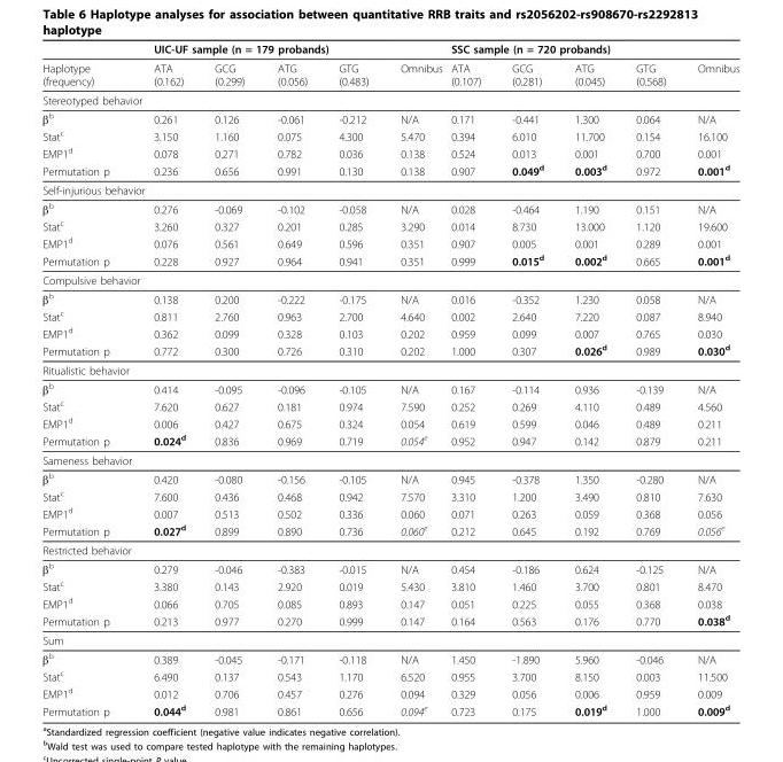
<table><thead><tr><td rowspan="2">Haplotype (frequency)</td><td colspan="5">UIC-UF sample (n = 179 probands)</td><td colspan="5">SSC sample (n = 720 probands)</td></tr><tr><td>ATA (0.162)</td><td>GCG (0.299)</td><td>ATG (0.056)</td><td>GTG (0.483)</td><td>Omnibus</td><td>ATA (0.107)</td><td>GCG (0.281)</td><td>ATG (0.045)</td><td>GTG (0.568)</td><td>Omnibus</td></tr></thead><tbody><tr><td colspan="11">Stereotyped behavior</td></tr><tr><td>β<sup>b</sup></td><td>0.261</td><td>0.126</td><td>-0.061</td><td>-0.212</td><td>N/A</td><td>0.171</td><td>-0.441</td><td>1.300</td><td>0.064</td><td>N/A</td></tr><tr><td>Stat<sup>c</sup></td><td>3.150</td><td>1.160</td><td>0.075</td><td>4.300</td><td>5.470</td><td>0.394</td><td>6.010</td><td>11.700</td><td>0.154</td><td>16.100</td></tr><tr><td>EMP1<sup>d</sup></td><td>0.078</td><td>0.271</td><td>0.782</td><td>0.036</td><td>0.138</td><td>0.524</td><td>0.013</td><td>0.001</td><td>0.700</td><td>0.001</td></tr><tr><td>Permutation p</td><td>0.236</td><td>0.656</td><td>0.991</td><td>0.130</td><td>0.138</td><td>0.907</td><td>0.049<sup>d</sup></td><td>0.003<sup>d</sup></td><td>0.972</td><td>0.001<sup>d</sup></td></tr><tr><td colspan="11">Self-injurious behavior</td></tr><tr><td>β<sup>b</sup></td><td>0.276</td><td>-0.069</td><td>-0.102</td><td>-0.058</td><td>N/A</td><td>0.028</td><td>-0.464</td><td>1.190</td><td>0.151</td><td>N/A</td></tr><tr><td>Stat<sup>c</sup></td><td>3.260</td><td>0.327</td><td>0.201</td><td>0.285</td><td>3.290</td><td>0.014</td><td>8.730</td><td>13.000</td><td>1.120</td><td>19.600</td></tr><tr><td>EMP1<sup>d</sup></td><td>0.076</td><td>0.561</td><td>0.649</td><td>0.596</td><td>0.351</td><td>0.907</td><td>0.005</td><td>0.001</td><td>0.289</td><td>0.001</td></tr><tr><td>Permutation p</td><td>0.228</td><td>0.927</td><td>0.964</td><td>0.941</td><td>0.351</td><td>0.999</td><td>0.015<sup>d</sup></td><td>0.002<sup>d</sup></td><td>0.665</td><td>0.001<sup>d</sup></td></tr><tr><td colspan="11">Compulsive behavior</td></tr><tr><td>β<sup>b</sup></td><td>0.138</td><td>0.200</td><td>-0.222</td><td>-0.175</td><td>N/A</td><td>0.016</td><td>-0.352</td><td>1.230</td><td>0.058</td><td>N/A</td></tr><tr><td>Stat<sup>c</sup></td><td>0.811</td><td>2.760</td><td>0.963</td><td>2.700</td><td>4.640</td><td>0.002</td><td>2.640</td><td>7.220</td><td>0.087</td><td>8.940</td></tr><tr><td>EMP1<sup>d</sup></td><td>0.362</td><td>0.099</td><td>0.328</td><td>0.103</td><td>0.202</td><td>0.959</td><td>0.099</td><td>0.007</td><td>0.765</td><td>0.030</td></tr><tr><td>Permutation p</td><td>0.772</td><td>0.300</td><td>0.726</td><td>0.310</td><td>0.202</td><td>1.000</td><td>0.307</td><td>0.026<sup>d</sup></td><td>0.989</td><td>0.030<sup>d</sup></td></tr><tr><td colspan="11">Ritualistic behavior</td></tr><tr><td>β<sup>b</sup></td><td>0.414</td><td>-0.095</td><td>-0.096</td><td>-0.105</td><td>N/A</td><td>0.167</td><td>-0.114</td><td>0.936</td><td>-0.139</td><td>N/A</td></tr><tr><td>Stat<sup>c</sup></td><td>7.620</td><td>0.627</td><td>0.181</td><td>0.974</td><td>7.590</td><td>0.252</td><td>0.269</td><td>4.110</td><td>0.489</td><td>4.560</td></tr><tr><td>EMP1<sup>d</sup></td><td>0.006</td><td>0.427</td><td>0.675</td><td>0.324</td><td>0.054</td><td>0.619</td><td>0.599</td><td>0.046</td><td>0.489</td><td>0.211</td></tr><tr><td>Permutation p</td><td>0.024<sup>d</sup></td><td>0.836</td><td>0.969</td><td>0.719</td><td>0.054<sup>e</sup></td><td>0.952</td><td>0.947</td><td>0.142</td><td>0.879</td><td>0.211</td></tr><tr><td colspan="11">Sameness behavior</td></tr><tr><td>β<sup>b</sup></td><td>0.420</td><td>-0.080</td><td>-0.156</td><td>-0.105</td><td>N/A</td><td>0.945</td><td>-0.378</td><td>1.350</td><td>-0.280</td><td>N/A</td></tr><tr><td>Stat<sup>c</sup></td><td>7.600</td><td>0.436</td><td>0.468</td><td>0.942</td><td>7.570</td><td>3.310</td><td>1.200</td><td>3.490</td><td>0.810</td><td>7.630</td></tr><tr><td>EMP1<sup>d</sup></td><td>0.007</td><td>0.513</td><td>0.502</td><td>0.336</td><td>0.060</td><td>0.071</td><td>0.263</td><td>0.059</td><td>0.368</td><td>0.056</td></tr><tr><td>Permutation p</td><td>0.027<sup>d</sup></td><td>0.899</td><td>0.890</td><td>0.736</td><td>0.060<sup>e</sup></td><td>0.212</td><td>0.645</td><td>0.192</td><td>0.769</td><td>0.056<sup>e</sup></td></tr><tr><td colspan="11">Restricted behavior</td></tr><tr><td>β<sup>b</sup></td><td>0.279</td><td>-0.046</td><td>-0.383</td><td>-0.015</td><td>N/A</td><td>0.454</td><td>-0.186</td><td>0.624</td><td>-0.125</td><td>N/A</td></tr><tr><td>Stat<sup>c</sup></td><td>3.380</td><td>0.143</td><td>2.920</td><td>0.019</td><td>5.430</td><td>3.810</td><td>1.460</td><td>3.700</td><td>0.801</td><td>8.470</td></tr><tr><td>EMP1<sup>d</sup></td><td>0.066</td><td>0.705</td><td>0.085</td><td>0.893</td><td>0.147</td><td>0.051</td><td>0.225</td><td>0.055</td><td>0.368</td><td>0.038</td></tr><tr><td>Permutation p</td><td>0.213</td><td>0.977</td><td>0.270</td><td>0.999</td><td>0.147</td><td>0.164</td><td>0.563</td><td>0.176</td><td>0.770</td><td>0.038<sup>d</sup></td></tr><tr><td colspan="11">Sum</td></tr><tr><td>β<sup>b</sup></td><td>0.389</td><td>-0.045</td><td>-0.171</td><td>-0.118</td><td>N/A</td><td>1.450</td><td>-1.890</td><td>5.960</td><td>-0.046</td><td>N/A</td></tr><tr><td>Stat<sup>c</sup></td><td>6.490</td><td>0.137</td><td>0.543</td><td>1.170</td><td>6.520</td><td>0.955</td><td>3.700</td><td>8.150</td><td>0.003</td><td>11.500</td></tr><tr><td>EMP1<sup>d</sup></td><td>0.012</td><td>0.706</td><td>0.457</td><td>0.276</td><td>0.094</td><td>0.329</td><td>0.056</td><td>0.006</td><td>0.959</td><td>0.009</td></tr><tr><td>Permutation p</td><td>0.044<sup>d</sup></td><td>0.981</td><td>0.861</td><td>0.656</td><td>0.094<sup>e</sup></td><td>0.723</td><td>0.175</td><td>0.019<sup>d</sup></td><td>1.000</td><td>0.009<sup>d</sup></td></tr></tbody></table>